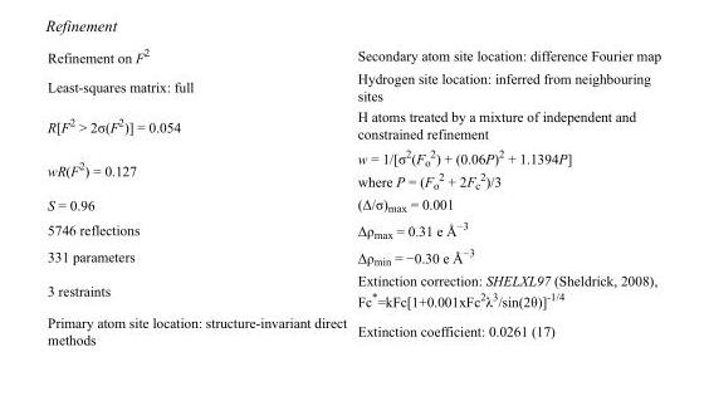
<table><tbody><tr><td>Refinement on F<sup>2</sup></td><td>Secondary atom site location: difference Fourier map</td></tr><tr><td>Least-squares matrix: full</td><td>Hydrogen site location: inferred from neighbouring sites</td></tr><tr><td>R[F<sup>2</sup> &gt; 2σ(F<sup>2</sup>)] = 0.054</td><td>H atoms treated by a mixture of independent and constrained refinement</td></tr><tr><td>wR(F<sup>2</sup>) = 0.127</td><td>w = 1/[σ<sup>2</sup>(F<sub>o</sub> <sup>2</sup>) + (0.06P)<sup>2</sup> + 1.1394P] where P = (F<sub>o</sub> <sup>2</sup> + 2F<sub>c</sub> <sup>2</sup>)/3</td></tr><tr><td>S = 0.96</td><td>(Δ/σ)<sub>max</sub> = 0.001</td></tr><tr><td>5746 reflections</td><td>Δρ<sub>max</sub> = 0.31 e Å<sup>−3</sup></td></tr><tr><td>331 parameters</td><td>Δρ<sub>min</sub> = −0.30 e Å<sup>−3</sup></td></tr><tr><td>3 restraints</td><td>Extinction correction: SHELXL97 (Sheldrick, 2008), Fc*=kFc[1+0.001xFc<sup>2</sup>λ<sup>3</sup>/sin(2θ)]<sup>-1/4</sup></td></tr><tr><td>Primary atom site location: structure-invariant direct methods</td><td>Extinction coefficient: 0.0261 (17)</td></tr></tbody></table>